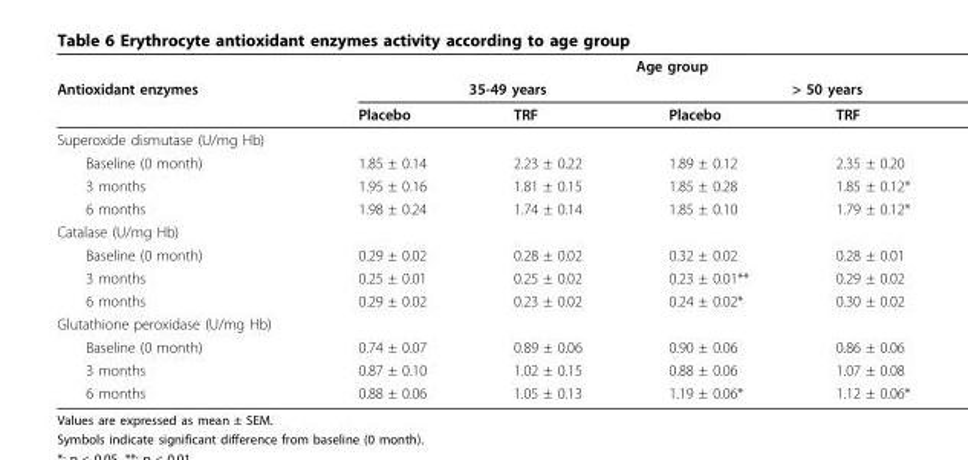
<table><thead><tr><td rowspan="3">Antioxidant enzymes</td><td colspan="4">Age group</td></tr><tr><td colspan="2">35-49 years</td><td colspan="2">&gt; 50 years</td></tr><tr><td>Placebo</td><td>TRF</td><td>Placebo</td><td>TRF</td></tr></thead><tbody><tr><td colspan="5">Superoxide dismutase (U/mg Hb)</td></tr><tr><td>Baseline (0 month)</td><td>1.85 ± 0.14</td><td>2.23 ± 0.22</td><td>1.89 ± 0.12</td><td>2.35 ± 0.20</td></tr><tr><td>3 months</td><td>1.95 ± 0.16</td><td>1.81 ± 0.15</td><td>1.85 ± 0.28</td><td>1.85 ± 0.12*</td></tr><tr><td>6 months</td><td>1.98 ± 0.24</td><td>1.74 ± 0.14</td><td>1.85 ± 0.10</td><td>1.79 ± 0.12*</td></tr><tr><td colspan="5">Catalase (U/mg Hb)</td></tr><tr><td>Baseline (0 month)</td><td>0.29 ± 0.02</td><td>0.28 ± 0.02</td><td>0.32 ± 0.02</td><td>0.28 ± 0.01</td></tr><tr><td>3 months</td><td>0.25 ± 0.01</td><td>0.25 ± 0.02</td><td>0.23 ± 0.01**</td><td>0.29 ± 0.02</td></tr><tr><td>6 months</td><td>0.29 ± 0.02</td><td>0.23 ± 0.02</td><td>0.24 ± 0.02*</td><td>0.30 ± 0.02</td></tr><tr><td colspan="5">Glutathione peroxidase (U/mg Hb)</td></tr><tr><td>Baseline (0 month)</td><td>0.74 ± 0.07</td><td>0.89 ± 0.06</td><td>0.90 ± 0.06</td><td>0.86 ± 0.06</td></tr><tr><td>3 months</td><td>0.87 ± 0.10</td><td>1.02 ± 0.15</td><td>0.88 ± 0.06</td><td>1.07 ± 0.08</td></tr><tr><td>6 months</td><td>0.88 ± 0.06</td><td>1.05 ± 0.13</td><td>1.19 ± 0.06*</td><td>1.12 ± 0.06*</td></tr></tbody></table>